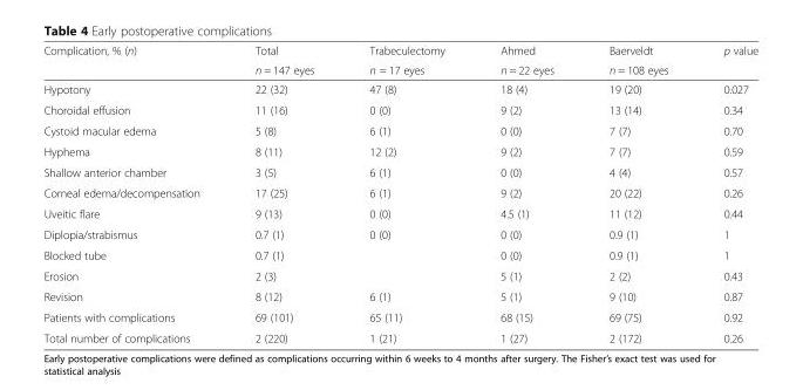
<table><thead><tr><td rowspan="2">Complication, % (n)</td><td rowspan="2">Total n = 147 eyes</td><td rowspan="2">Trabeculectomy n = 17 eyes</td><td rowspan="2">Ahmed n = 22 eyes</td><td rowspan="2">Baerveldt n = 108 eyes</td><td rowspan="2">p value</td></tr><tr></tr></thead><tbody><tr><td>Hypotony</td><td>22 (32)</td><td>47 (8)</td><td>18 (4)</td><td>19 (20)</td><td>0.027</td></tr><tr><td>Choroidal effusion</td><td>11 (16)</td><td>0 (0)</td><td>9 (2)</td><td>13 (14)</td><td>0.34</td></tr><tr><td>Cystoid macular edema</td><td>5 (8)</td><td>6 (1)</td><td>0 (0)</td><td>7 (7)</td><td>0.70</td></tr><tr><td>Hyphema</td><td>8 (11)</td><td>12 (2)</td><td>9 (2)</td><td>7 (7)</td><td>0.59</td></tr><tr><td>Shallow anterior chamber</td><td>3 (5)</td><td>6 (1)</td><td>0 (0)</td><td>4 (4)</td><td>0.57</td></tr><tr><td>Corneal edema/decompensation</td><td>17 (25)</td><td>6 (1)</td><td>9 (2)</td><td>20 (22)</td><td>0.26</td></tr><tr><td>Uveitic flare</td><td>9 (13)</td><td>0 (0)</td><td>4.5 (1)</td><td>11 (12)</td><td>0.44</td></tr><tr><td>Diplopia/strabismus</td><td>0.7 (1)</td><td>0 (0)</td><td>0 (0)</td><td>0.9 (1)</td><td>1</td></tr><tr><td>Blocked tube</td><td>0.7 (1)</td><td></td><td>0 (0)</td><td>0.9 (1)</td><td>1</td></tr><tr><td>Erosion</td><td>2 (3)</td><td></td><td>5 (1)</td><td>2 (2)</td><td>0.43</td></tr><tr><td>Revision</td><td>8 (12)</td><td>6 (1)</td><td>5 (1)</td><td>9 (10)</td><td>0.87</td></tr><tr><td>Patients with complications</td><td>69 (101)</td><td>65 (11)</td><td>68 (15)</td><td>69 (75)</td><td>0.92</td></tr><tr><td>Total number of complications</td><td>2 (220)</td><td>1 (21)</td><td>1 (27)</td><td>2 (172)</td><td>0.26</td></tr></tbody></table>